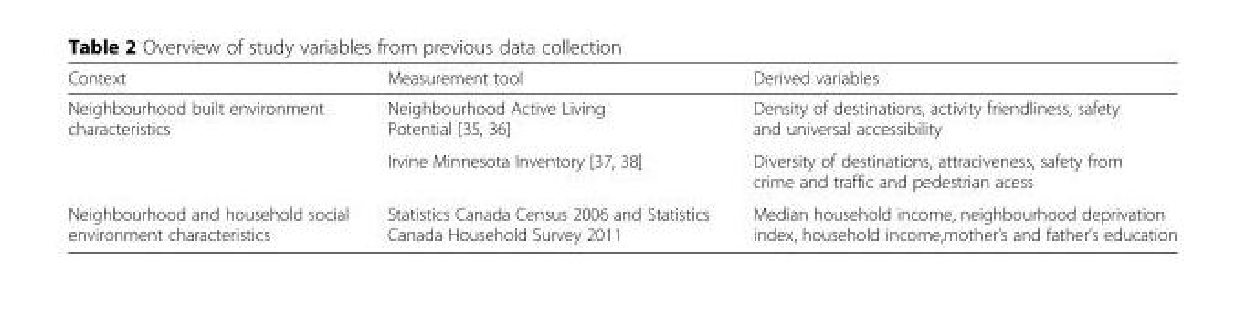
<table><thead><tr><td>Context</td><td>Measurement tool</td><td>Derived variables</td></tr></thead><tbody><tr><td rowspan="2">Neighbourhood built environment characteristics</td><td>Neighbourhood Active Living Potential [35, 36]</td><td>Density of destinations, activity friendliness, safety and universal accessibility</td></tr><tr><td>Irvine Minnesota Inventory [37, 38]</td><td>Diversity of destinations, attraciveness, safety from crime and traffic and pedestrian acess</td></tr><tr><td>Neighbourhood and household social environment characteristics</td><td>Statistics Canada Census 2006 and Statistics Canada Household Survey 2011</td><td>Median household income, neighbourhood deprivation index, household income,mother’s and father’s education</td></tr></tbody></table>